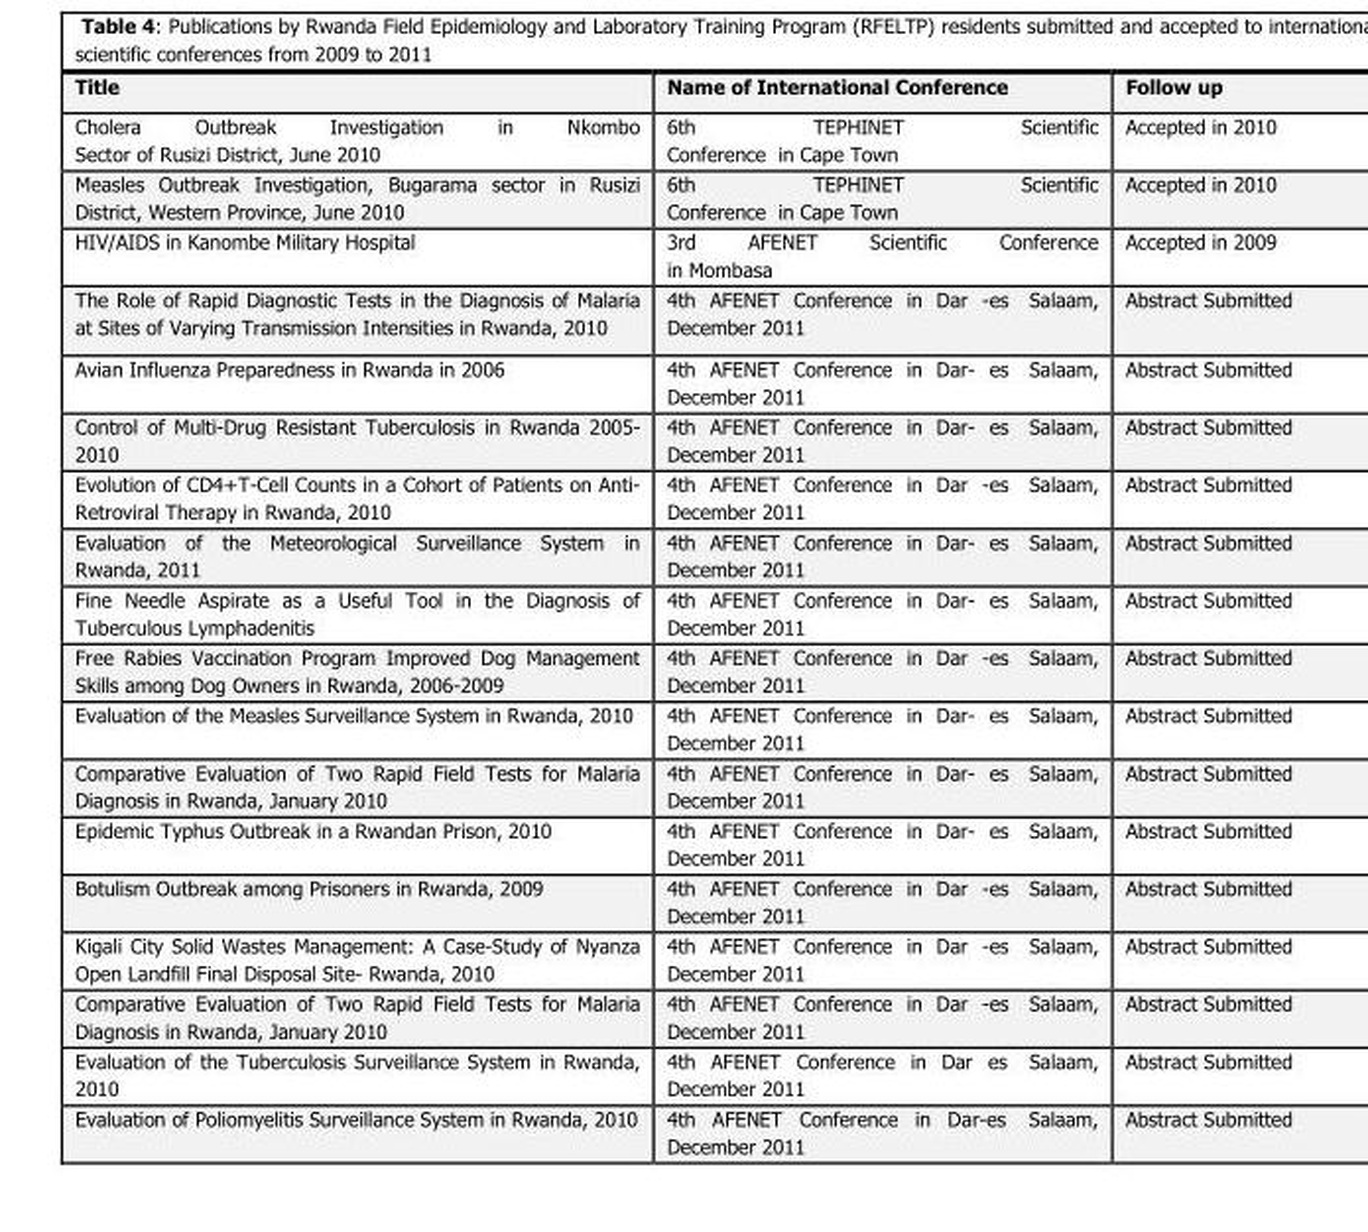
<table><thead><tr><td>Title</td><td>Name of International Conference</td><td>Follow up</td></tr></thead><tbody><tr><td>Cholera Outbreak Investigation in Nkombo Sector of Rusizi District, June 2010</td><td>6th TEPHINET Scientific Conference in Cape Town</td><td>Accepted in 2010</td></tr><tr><td>Measles Outbreak Investigation, Bugarama sector in Rusizi District, Western Province, June 2010</td><td>6th TEPHINET Scientific Conference in Cape Town</td><td>Accepted in 2010</td></tr><tr><td>HIV/AIDS in Kanombe Military Hospital</td><td>3rd AFENET Scientific Conference in Mombasa</td><td>Accepted in 2009</td></tr><tr><td>The Role of Rapid Diagnostic Tests in the Diagnosis of Malaria at Sites of Varying Transmission Intensities in Rwanda, 2010</td><td>4th AFENET Conference in Dar -es Salaam, December 2011</td><td>Abstract Submitted</td></tr><tr><td>Avian Influenza Preparedness in Rwanda in 2006</td><td>4th AFENET Conference in Dar- es Salaam, December 2011</td><td>Abstract Submitted</td></tr><tr><td>Control of Multi-Drug Resistant Tuberculosis in Rwanda 2005- 2010</td><td>4th AFENET Conference in Dar- es Salaam, December 2011</td><td>Abstract Submitted</td></tr><tr><td>Evolution of CD4+T-Cell Counts in a Cohort of Patients on Anti- Retroviral Therapy in Rwanda, 2010</td><td>4th AFENET Conference in Dar -es Salaam, December 2011</td><td>Abstract Submitted</td></tr><tr><td>Evaluation of the Meteorological Surveillance System in Rwanda, 2011</td><td>4th AFENET Conference in Dar- es Salaam, December 2011</td><td>Abstract Submitted</td></tr><tr><td>Fine Needle Aspirate as a Useful Tool in the Diagnosis of Tuberculous Lymphadenitis</td><td>4th AFENET Conference in Dar- es Salaam, December 2011</td><td>Abstract Submitted</td></tr><tr><td>Free Rabies Vaccination Program Improved Dog Management Skills among Dog Owners in Rwanda, 2006-2009</td><td>4th AFENET Conference in Dar -es Salaam, December 2011</td><td>Abstract Submitted</td></tr><tr><td>Evaluation of the Measles Surveillance System in Rwanda, 2010</td><td>4th AFENET Conference in Dar- es Salaam, December 2011</td><td>Abstract Submitted</td></tr><tr><td>Comparative Evaluation of Two Rapid Field Tests for Malaria Diagnosis in Rwanda, January 2010</td><td>4th AFENET Conference in Dar- es Salaam, December 2011</td><td>Abstract Submitted</td></tr><tr><td>Epidemic Typhus Outbreak in a Rwandan Prison, 2010</td><td>4th AFENET Conference in Dar- es Salaam, December 2011</td><td>Abstract Submitted</td></tr><tr><td>Botulism Outbreak among Prisoners in Rwanda, 2009</td><td>4th AFENET Conference in Dar -es Salaam, December 2011</td><td>Abstract Submitted</td></tr><tr><td>Kigali City Solid Wastes Management: A Case-Study of Nyanza Open Landfill Final Disposal Site- Rwanda, 2010</td><td>4th AFENET Conference in Dar -es Salaam, December 2011</td><td>Abstract Submitted</td></tr><tr><td>Comparative Evaluation of Two Rapid Field Tests for Malaria Diagnosis in Rwanda, January 2010</td><td>4th AFENET Conference in Dar -es Salaam, December 2011</td><td>Abstract Submitted</td></tr><tr><td>Evaluation of the Tuberculosis Surveillance System in Rwanda, 2010</td><td>4th AFENET Conference in Dar es Salaam, December 2011</td><td>Abstract Submitted</td></tr><tr><td>Evaluation of Poliomyelitis Surveillance System in Rwanda, 2010</td><td>4th AFENET Conference in Dar-es Salaam, December 2011</td><td>Abstract Submitted</td></tr></tbody></table>